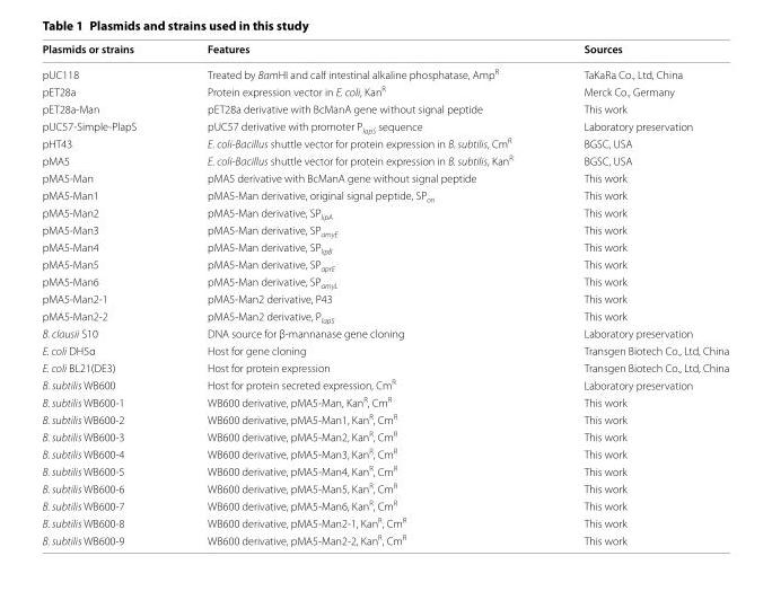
<table><thead><tr><td>Plasmids or strains</td><td>Features</td><td>Sources</td></tr></thead><tbody><tr><td>pUC118</td><td>Treated by BamHI and calf intestinal alkaline phosphatase, Amp<sup>R</sup></td><td>TaKaRa Co., Ltd, China</td></tr><tr><td>pET28a</td><td>Protein expression vector in E. coli, Kan<sup>R</sup></td><td>Merck Co., Germany</td></tr><tr><td>pET28a-Man</td><td>pET28a derivative with BcManA gene without signal peptide</td><td>This work</td></tr><tr><td>pUC57-Simple-PlapS</td><td>pUC57 derivative with promoter P<sub>lapS</sub> sequence</td><td>Laboratory preservation</td></tr><tr><td>pHT43</td><td>E. coli-Bacillus shuttle vector for protein expression in B. subtilis, Cm<sup>R</sup></td><td>BGSC, USA</td></tr><tr><td>pMA5</td><td>E. coli-Bacillus shuttle vector for protein expression in B. subtilis, Kan<sup>R</sup></td><td>BGSC, USA</td></tr><tr><td>pMA5-Man</td><td>pMA5 derivative with BcManA gene without signal peptide</td><td>This work</td></tr><tr><td>pMA5-Man1</td><td>pMA5-Man derivative, original signal peptide, SP<sub>ori</sub></td><td>This work</td></tr><tr><td>pMA5-Man2</td><td>pMA5-Man derivative, SP<sub>lipA</sub></td><td>This work</td></tr><tr><td>pMA5-Man3</td><td>pMA5-Man derivative, SP<sub>amyE</sub></td><td>This work</td></tr><tr><td>pMA5-Man4</td><td>pMA5-Man derivative, SP<sub>lipB</sub></td><td>This work</td></tr><tr><td>pMA5-Man5</td><td>pMA5-Man derivative, SP<sub>aprE</sub></td><td>This work</td></tr><tr><td>pMA5-Man6</td><td>pMA5-Man derivative, SP<sub>amyL</sub></td><td>This work</td></tr><tr><td>pMA5-Man2-1</td><td>pMA5-Man2 derivative, P43</td><td>This work</td></tr><tr><td>pMA5-Man2-2</td><td>pMA5-Man2 derivative, P<sub>lapS</sub></td><td>This work</td></tr><tr><td>B. clausii S10</td><td>DNA source for β-mannanase gene cloning</td><td>Laboratory preservation</td></tr><tr><td>E. coli DH5α</td><td>Host for gene cloning</td><td>Transgen Biotech Co., Ltd, China</td></tr><tr><td>E. coli BL21(DE3)</td><td>Host for protein expression</td><td>Transgen Biotech Co., Ltd, China</td></tr><tr><td>B. subtilis WB600</td><td>Host for protein secreted expression, Cm<sup>R</sup></td><td>Laboratory preservation</td></tr><tr><td>B. subtilis WB600-1</td><td>WB600 derivative, pMA5-Man, Kan<sup>R</sup>, Cm<sup>R</sup></td><td>This work</td></tr><tr><td>B. subtilis WB600-2</td><td>WB600 derivative, pMA5-Man1, Kan<sup>R</sup>, Cm<sup>R</sup></td><td>This work</td></tr><tr><td>B. subtilis WB600-3</td><td>WB600 derivative, pMA5-Man2, Kan<sup>R</sup>, Cm<sup>R</sup></td><td>This work</td></tr><tr><td>B. subtilis WB600-4</td><td>WB600 derivative, pMA5-Man3, Kan<sup>R</sup>, Cm<sup>R</sup></td><td>This work</td></tr><tr><td>B. subtilis WB600-5</td><td>WB600 derivative, pMA5-Man4, Kan<sup>R</sup>, Cm<sup>R</sup></td><td>This work</td></tr><tr><td>B. subtilis WB600-6</td><td>WB600 derivative, pMA5-Man5, Kan<sup>R</sup>, Cm<sup>R</sup></td><td>This work</td></tr><tr><td>B. subtilis WB600-7</td><td>WB600 derivative, pMA5-Man6, Kan<sup>R</sup>, Cm<sup>R</sup></td><td>This work</td></tr><tr><td>B. subtilis WB600-8</td><td>WB600 derivative, pMA5-Man2-1, Kan<sup>R</sup>, Cm<sup>R</sup></td><td>This work</td></tr><tr><td>B. subtilis WB600-9</td><td>WB600 derivative, pMA5-Man2-2, Kan<sup>R</sup>, Cm<sup>R</sup></td><td>This work</td></tr></tbody></table>